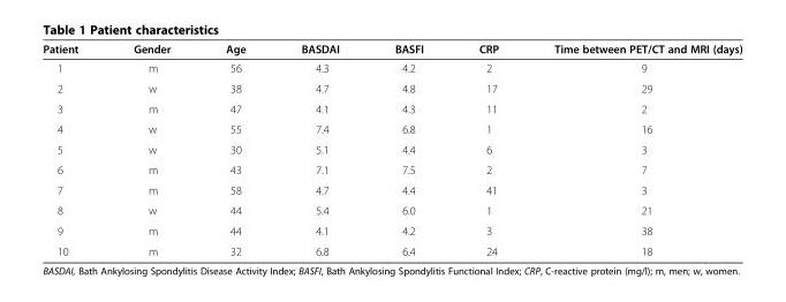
<table><thead><tr><td>Patient</td><td>Gender</td><td>Age</td><td>BASDAI</td><td>BASFI</td><td>CRP</td><td>Time between PET/CT and MRI (days)</td></tr></thead><tbody><tr><td>1</td><td>m</td><td>56</td><td>4.3</td><td>4.2</td><td>2</td><td>9</td></tr><tr><td>2</td><td>w</td><td>38</td><td>4.7</td><td>4.8</td><td>17</td><td>29</td></tr><tr><td>3</td><td>m</td><td>47</td><td>4.1</td><td>4.3</td><td>11</td><td>2</td></tr><tr><td>4</td><td>w</td><td>55</td><td>7.4</td><td>6.8</td><td>1</td><td>16</td></tr><tr><td>5</td><td>w</td><td>30</td><td>5.1</td><td>4.4</td><td>6</td><td>3</td></tr><tr><td>6</td><td>m</td><td>43</td><td>7.1</td><td>7.5</td><td>2</td><td>7</td></tr><tr><td>7</td><td>m</td><td>58</td><td>4.7</td><td>4.4</td><td>41</td><td>3</td></tr><tr><td>8</td><td>w</td><td>44</td><td>5.4</td><td>6.0</td><td>1</td><td>21</td></tr><tr><td>9</td><td>m</td><td>44</td><td>4.1</td><td>4.2</td><td>3</td><td>38</td></tr><tr><td>10</td><td>m</td><td>32</td><td>6.8</td><td>6.4</td><td>24</td><td>18</td></tr></tbody></table>